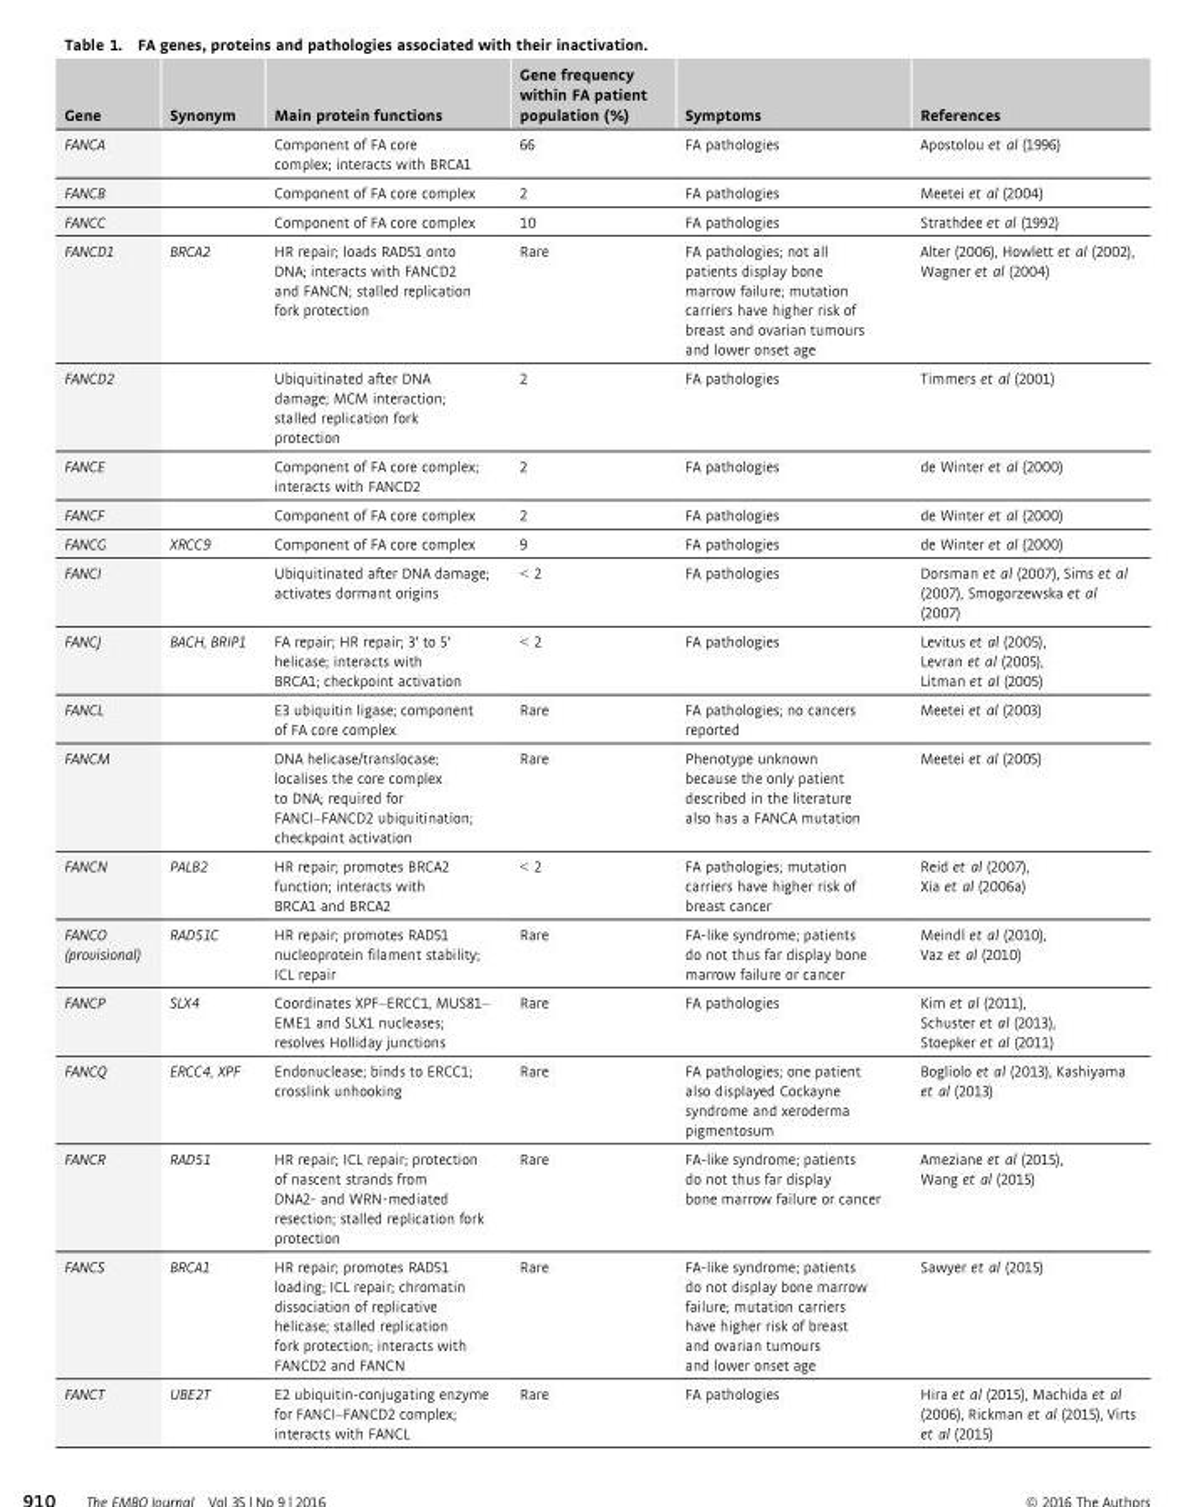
<table><thead><tr><td>Gene</td><td>Synonym</td><td>Main protein functions</td><td>Gene frequency within FA patient population (%)</td><td>Symptoms</td><td>References</td></tr></thead><tbody><tr><td>FANCA</td><td></td><td>Component of FA core complex; interacts with BRCA1</td><td>66</td><td>FA pathologies</td><td>Apostolou et al (1996)</td></tr><tr><td>FANCB</td><td></td><td>Component of FA core complex</td><td>2</td><td>FA pathologies</td><td>Meetei et al (2004)</td></tr><tr><td>FANCC</td><td></td><td>Component of FA core complex</td><td>10</td><td>FA pathologies</td><td>Strathdee et al (1992)</td></tr><tr><td>FANCD1</td><td>BRCA2</td><td>HR repair; loads RAD51 onto DNA; interacts with FANCD2 and FANCN; stalled replication fork protection</td><td>Rare</td><td>FA pathologies; not all patients display bone marrow failure; mutation carriers have higher risk of breast and ovarian tumours and lower onset age</td><td>Alter (2006), Howlett et al (2002), Wagner et al (2004)</td></tr><tr><td>FANCD2</td><td></td><td>Ubiquitinated after DNA damage; MCM interaction; stalled replication fork protection</td><td>2</td><td>FA pathologies</td><td>Timmers et al (2001)</td></tr><tr><td>FANCE</td><td></td><td>Component of FA core complex; interacts with FANCD2</td><td>2</td><td>FA pathologies</td><td>de Winter et al (2000)</td></tr><tr><td>FANCF</td><td></td><td>Component of FA core complex</td><td>2</td><td>FA pathologies</td><td>de Winter et al (2000)</td></tr><tr><td>FANCG</td><td>XRCC9</td><td>Component of FA core complex</td><td>9</td><td>FA pathologies</td><td>de Winter et al (2000)</td></tr><tr><td>FANCI</td><td></td><td>Ubiquitinated after DNA damage; activates dormant origins</td><td>&lt; 2</td><td>FA pathologies</td><td>Dorsman et al (2007), Sims et al (2007), Smogorzewska et al (2007)</td></tr><tr><td>FANCJ</td><td>BACH, BRIP1</td><td>FA repair; HR repair; 3ʹ to 5ʹ helicase; interacts with BRCA1; checkpoint activation</td><td>&lt; 2</td><td>FA pathologies</td><td>Levitus et al (2005), Levran et al (2005), Litman et al (2005)</td></tr><tr><td>FANCL</td><td></td><td>E3 ubiquitin ligase; component of FA core complex</td><td>Rare</td><td>FA pathologies; no cancers reported</td><td>Meetei et al (2003)</td></tr><tr><td>FANCM</td><td></td><td>DNA helicase/translocase; localises the core complex to DNA; required for FANCI–FANCD2 ubiquitination; checkpoint activation</td><td>Rare</td><td>Phenotype unknown because the only patient described in the literature also has a FANCA mutation</td><td>Meetei et al (2005)</td></tr><tr><td>FANCN</td><td>PALB2</td><td>HR repair; promotes BRCA2 function; interacts with BRCA1 and BRCA2</td><td>&lt; 2</td><td>FA pathologies; mutation carriers have higher risk of breast cancer</td><td>Reid et al (2007), Xia et al (2006a)</td></tr><tr><td>FANCO (provisional)</td><td>RAD51C</td><td>HR repair; promotes RAD51 nucleoprotein filament stability; ICL repair</td><td>Rare</td><td>FA-like syndrome; patients do not thus far display bone marrow failure or cancer</td><td>Meindl et al (2010), Vaz et al (2010)</td></tr><tr><td>FANCP</td><td>SLX4</td><td>Coordinates XPF–ERCC1, MUS81– EME1 and SLX1 nucleases; resolves Holliday junctions</td><td>Rare</td><td>FA pathologies</td><td>Kim et al (2011), Schuster et al (2013), Stoepker et al (2011)</td></tr><tr><td>FANCQ</td><td>ERCC4, XPF</td><td>Endonuclease; binds to ERCC1; crosslink unhooking</td><td>Rare</td><td>FA pathologies; one patient also displayed Cockayne syndrome and xeroderma pigmentosum</td><td>Bogliolo et al (2013), Kashiyama et al (2013)</td></tr><tr><td>FANCR</td><td>RAD51</td><td>HR repair; ICL repair; protection of nascent strands from DNA2- and WRN-mediated resection; stalled replication fork protection</td><td>Rare</td><td>FA-like syndrome; patients do not thus far display bone marrow failure or cancer</td><td>Ameziane et al (2015), Wang et al (2015)</td></tr><tr><td>FANCS</td><td>BRCA1</td><td>HR repair; promotes RAD51 loading; ICL repair; chromatin dissociation of replicative helicase; stalled replication fork protection; interacts with FANCD2 and FANCN</td><td>Rare</td><td>FA-like syndrome; patients do not display bone marrow failure; mutation carriers have higher risk of breast and ovarian tumours and lower onset age</td><td>Sawyer et al (2015)</td></tr><tr><td>FANCT</td><td>UBE2T</td><td>E2 ubiquitin-conjugating enzyme for FANCI–FANCD2 complex; interacts with FANCL</td><td>Rare</td><td>FA pathologies</td><td>Hira et al (2015), Machida et al (2006), Rickman et al (2015), Virts et al (2015)</td></tr></tbody></table>